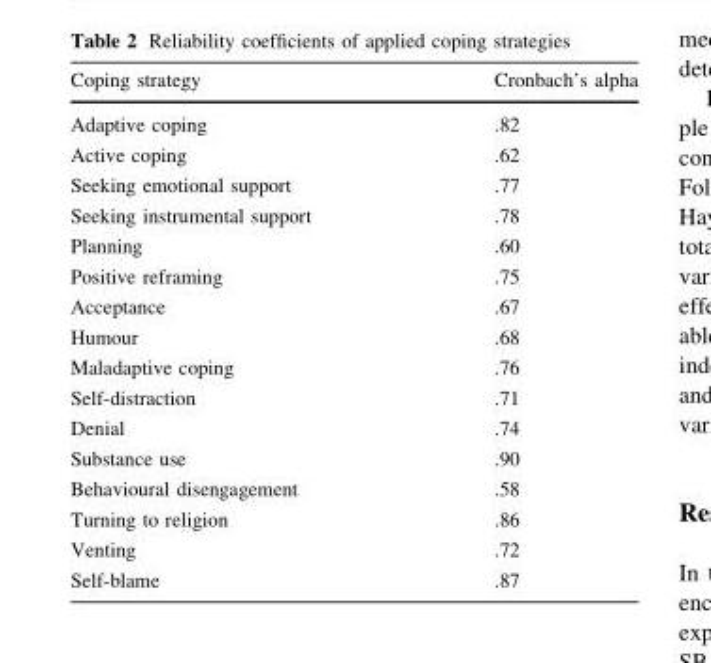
<table><thead><tr><td>Coping strategy</td><td>Cronbach’s alpha</td></tr></thead><tbody><tr><td>Adaptive coping</td><td>.82</td></tr><tr><td>Active coping</td><td>.62</td></tr><tr><td>Seeking emotional support</td><td>.77</td></tr><tr><td>Seeking instrumental support</td><td>.78</td></tr><tr><td>Planning</td><td>.60</td></tr><tr><td>Positive reframing</td><td>.75</td></tr><tr><td>Acceptance</td><td>.67</td></tr><tr><td>Humour</td><td>.68</td></tr><tr><td>Maladaptive coping</td><td>.76</td></tr><tr><td>Self-distraction</td><td>.71</td></tr><tr><td>Denial</td><td>.74</td></tr><tr><td>Substance use</td><td>.90</td></tr><tr><td>Behavioural disengagement</td><td>.58</td></tr><tr><td>Turning to religion</td><td>.86</td></tr><tr><td>Venting</td><td>.72</td></tr><tr><td>Self-blame</td><td>.87</td></tr></tbody></table>